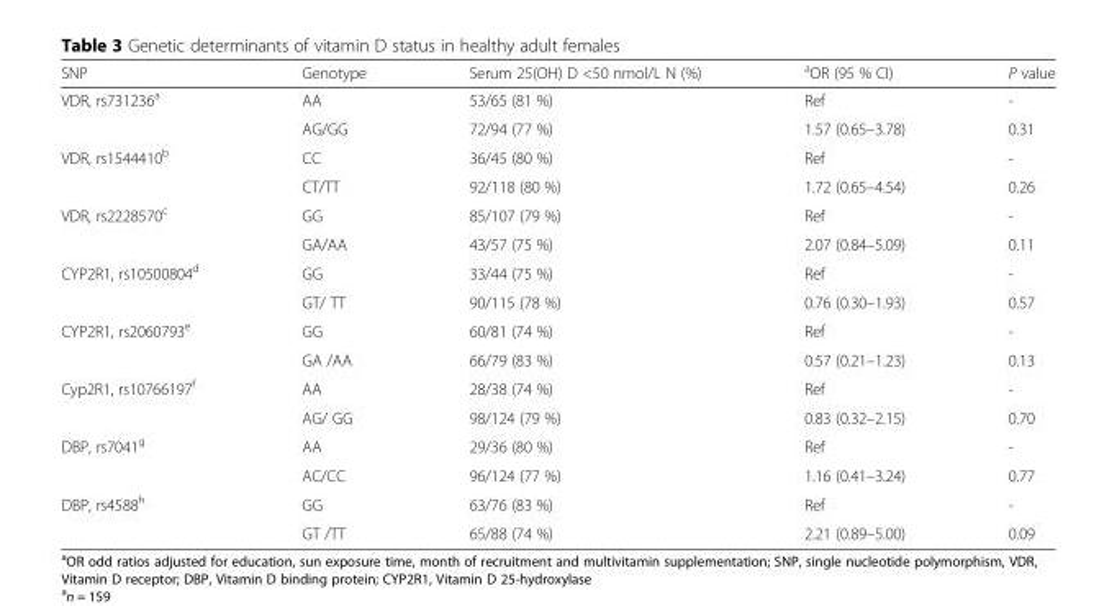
<table><thead><tr><td>SNP</td><td>Genotype</td><td>Serum 25(OH) D &lt;50 nmol/L N (%)</td><td><sup>a</sup>OR (95 % CI)</td><td>P value</td></tr></thead><tbody><tr><td rowspan="2">VDR, rs731236<sup>a</sup></td><td>AA</td><td>53/65 (81 %)</td><td>Ref</td><td>-</td></tr><tr><td>AG/GG</td><td>72/94 (77 %)</td><td>1.57 (0.65–3.78)</td><td>0.31</td></tr><tr><td rowspan="2">VDR, rs1544410<sup>b</sup></td><td>CC</td><td>36/45 (80 %)</td><td>Ref</td><td>-</td></tr><tr><td>CT/TT</td><td>92/118 (80 %)</td><td>1.72 (0.65–4.54)</td><td>0.26</td></tr><tr><td rowspan="2">VDR, rs2228570<sup>c</sup></td><td>GG</td><td>85/107 (79 %)</td><td>Ref</td><td>-</td></tr><tr><td>GA/AA</td><td>43/57 (75 %)</td><td>2.07 (0.84–5.09)</td><td>0.11</td></tr><tr><td rowspan="2">CYP2R1, rs10500804<sup>d</sup></td><td>GG</td><td>33/44 (75 %)</td><td>Ref</td><td>-</td></tr><tr><td>GT/ TT</td><td>90/115 (78 %)</td><td>0.76 (0.30–1.93)</td><td>0.57</td></tr><tr><td rowspan="2">CYP2R1, rs2060793<sup>e</sup></td><td>GG</td><td>60/81 (74 %)</td><td>Ref</td><td>-</td></tr><tr><td>GA /AA</td><td>66/79 (83 %)</td><td>0.57 (0.21–1.23)</td><td>0.13</td></tr><tr><td rowspan="2">Cyp2R1, rs10766197<sup>f</sup></td><td>AA</td><td>28/38 (74 %)</td><td>Ref</td><td>-</td></tr><tr><td>AG/ GG</td><td>98/124 (79 %)</td><td>0.83 (0.32–2.15)</td><td>0.70</td></tr><tr><td rowspan="2">DBP, rs7041<sup>g</sup></td><td>AA</td><td>29/36 (80 %)</td><td>Ref</td><td>-</td></tr><tr><td>AC/CC</td><td>96/124 (77 %)</td><td>1.16 (0.41–3.24)</td><td>0.77</td></tr><tr><td rowspan="2">DBP, rs4588<sup>h</sup></td><td>GG</td><td>63/76 (83 %)</td><td>Ref</td><td>-</td></tr><tr><td>GT /TT</td><td>65/88 (74 %)</td><td>2.21 (0.89–5.00)</td><td>0.09</td></tr></tbody></table>